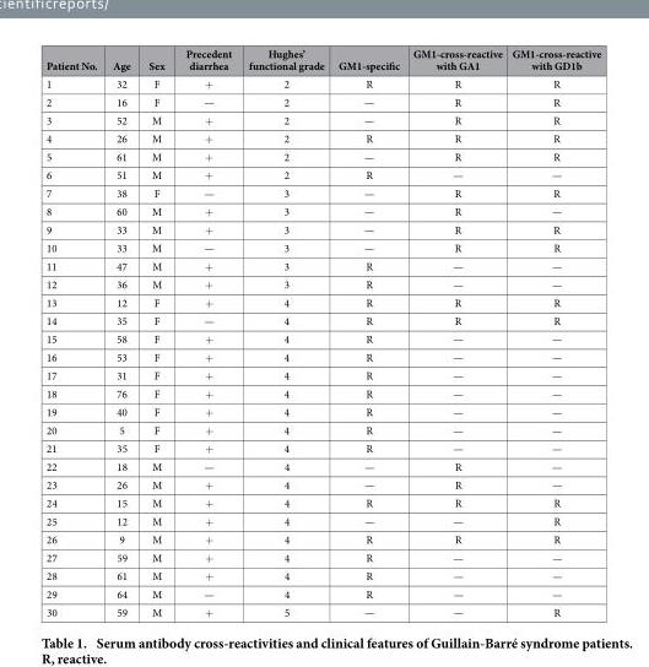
<table><thead><tr><td>Patient No.</td><td>Age</td><td>Sex</td><td>Precedent diarrhea</td><td>Hughes’ functional grade</td><td>GM1-specific</td><td>GM1-cross-reactive with GA1</td><td>GM1-cross-reactive with GD1b</td></tr></thead><tbody><tr><td>1</td><td>32</td><td>F</td><td>+</td><td>2</td><td>R</td><td>R</td><td>R</td></tr><tr><td>2</td><td>16</td><td>F</td><td>—</td><td>2</td><td>—</td><td>R</td><td>R</td></tr><tr><td>3</td><td>52</td><td>M</td><td>+</td><td>2</td><td>—</td><td>R</td><td>R</td></tr><tr><td>4</td><td>26</td><td>M</td><td>+</td><td>2</td><td>R</td><td>R</td><td>R</td></tr><tr><td>5</td><td>61</td><td>M</td><td>+</td><td>2</td><td>—</td><td>R</td><td>R</td></tr><tr><td>6</td><td>51</td><td>M</td><td>+</td><td>2</td><td>R</td><td>—</td><td>—</td></tr><tr><td>7</td><td>38</td><td>F</td><td>—</td><td>3</td><td>—</td><td>R</td><td>R</td></tr><tr><td>8</td><td>60</td><td>M</td><td>+</td><td>3</td><td>—</td><td>R</td><td>—</td></tr><tr><td>9</td><td>33</td><td>M</td><td>+</td><td>3</td><td>—</td><td>R</td><td>R</td></tr><tr><td>10</td><td>33</td><td>M</td><td>—</td><td>3</td><td>—</td><td>R</td><td>R</td></tr><tr><td>11</td><td>47</td><td>M</td><td>+</td><td>3</td><td>R</td><td>—</td><td>—</td></tr><tr><td>12</td><td>36</td><td>M</td><td>+</td><td>3</td><td>R</td><td>—</td><td>—</td></tr><tr><td>13</td><td>12</td><td>F</td><td>+</td><td>4</td><td>R</td><td>R</td><td>R</td></tr><tr><td>14</td><td>35</td><td>F</td><td>—</td><td>4</td><td>R</td><td>R</td><td>R</td></tr><tr><td>15</td><td>58</td><td>F</td><td>+</td><td>4</td><td>R</td><td>—</td><td>—</td></tr><tr><td>16</td><td>53</td><td>F</td><td>+</td><td>4</td><td>R</td><td>—</td><td>—</td></tr><tr><td>17</td><td>31</td><td>F</td><td>+</td><td>4</td><td>R</td><td>—</td><td>—</td></tr><tr><td>18</td><td>76</td><td>F</td><td>+</td><td>4</td><td>R</td><td>—</td><td>—</td></tr><tr><td>19</td><td>40</td><td>F</td><td>+</td><td>4</td><td>R</td><td>—</td><td>—</td></tr><tr><td>20</td><td>5</td><td>F</td><td>+</td><td>4</td><td>R</td><td>—</td><td>—</td></tr><tr><td>21</td><td>35</td><td>F</td><td>+</td><td>4</td><td>R</td><td>—</td><td>—</td></tr><tr><td>22</td><td>18</td><td>M</td><td>—</td><td>4</td><td>—</td><td>R</td><td>—</td></tr><tr><td>23</td><td>26</td><td>M</td><td>+</td><td>4</td><td>—</td><td>R</td><td>—</td></tr><tr><td>24</td><td>15</td><td>M</td><td>+</td><td>4</td><td>R</td><td>R</td><td>R</td></tr><tr><td>25</td><td>12</td><td>M</td><td>+</td><td>4</td><td>—</td><td>—</td><td>R</td></tr><tr><td>26</td><td>9</td><td>M</td><td>+</td><td>4</td><td>R</td><td>R</td><td>R</td></tr><tr><td>27</td><td>59</td><td>M</td><td>+</td><td>4</td><td>R</td><td>—</td><td>—</td></tr><tr><td>28</td><td>61</td><td>M</td><td>+</td><td>4</td><td>R</td><td>—</td><td>—</td></tr><tr><td>29</td><td>64</td><td>M</td><td>—</td><td>4</td><td>R</td><td>—</td><td>—</td></tr><tr><td>30</td><td>59</td><td>M</td><td>+</td><td>5</td><td>—</td><td>—</td><td>R</td></tr></tbody></table>